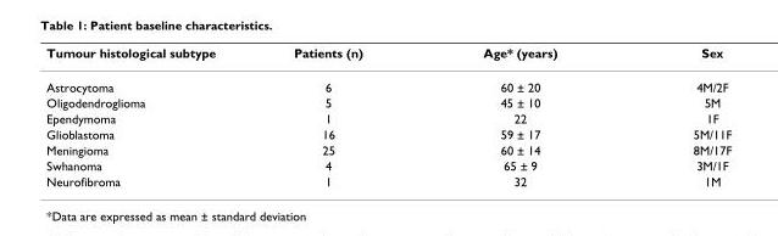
<table><thead><tr><td>Tumour histological subtype</td><td>Patients (n)</td><td>Age* (years)</td><td>Sex</td></tr></thead><tbody><tr><td>Astrocytoma</td><td>6</td><td>60 ± 20</td><td>4M/2F</td></tr><tr><td>Oligodendroglioma</td><td>5</td><td>45 ± 10</td><td>5M</td></tr><tr><td>Ependymoma</td><td>1</td><td>22</td><td>1F</td></tr><tr><td>Glioblastoma</td><td>16</td><td>59 ± 17</td><td>5M/11F</td></tr><tr><td>Meningioma</td><td>25</td><td>60 ± 14</td><td>8M/17F</td></tr><tr><td>Swhanoma</td><td>4</td><td>65 ± 9</td><td>3M/1F</td></tr><tr><td>Neurofibroma</td><td>1</td><td>32</td><td>1M</td></tr></tbody></table>